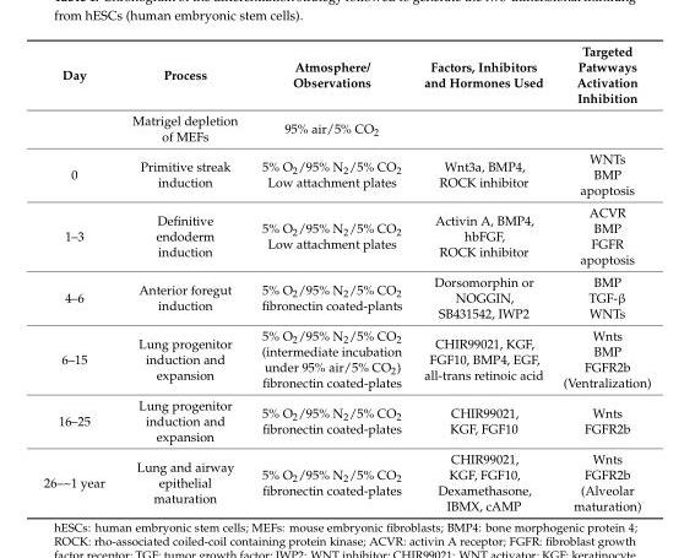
<table><thead><tr><td>Day</td><td>Process</td><td>Atmosphere/ Observations</td><td>Factors, Inhibitors and Hormones Used</td><td>Targeted Patwways Activation Inhibition</td></tr></thead><tbody><tr><td></td><td>Matrigel depletion of MEFs</td><td>95% air/5% CO<sub>2</sub></td><td></td><td></td></tr><tr><td>0</td><td>Primitive streak induction</td><td>5% O<sub>2</sub>/95% N<sub>2</sub>/5% CO<sub>2</sub> Low attachment plates</td><td>Wnt3a, BMP4, ROCK inhibitor</td><td>WNTs BMP apoptosis</td></tr><tr><td>1–3</td><td>Definitive endoderm induction</td><td>5% O<sub>2</sub>/95% N<sub>2</sub>/5% CO<sub>2</sub> Low attachment plates</td><td>Activin A, BMP4, hbFGF, ROCK inhibitor</td><td>ACVR BMP FGFR apoptosis</td></tr><tr><td>4–6</td><td>Anterior foregut induction</td><td>5% O<sub>2</sub>/95% N<sub>2</sub>/5% CO<sub>2</sub> fibronectin coated-plants</td><td>Dorsomorphin or NOGGIN, SB431542, IWP2</td><td>BMP TGF-β WNTs</td></tr><tr><td>6–15</td><td>Lung progenitor induction and expansion</td><td>5% O<sub>2</sub>/95% N<sub>2</sub>/5% CO<sub>2</sub> (intermediate incubation under 95% air/5% CO<sub>2</sub>) fibronectin coated-plates</td><td>CHIR99021, KGF, FGF10, BMP4, EGF, all-trans retinoic acid</td><td>Wnts BMP FGFR2b (Ventralization)</td></tr><tr><td>16–25</td><td>Lung progenitor induction and expansion</td><td>5% O<sub>2</sub>/95% N<sub>2</sub>/5% CO<sub>2</sub> fibronectin coated-plates</td><td>CHIR99021, KGF, FGF10</td><td>Wnts FGFR2b</td></tr><tr><td>26–~1 year</td><td>Lung and airway epithelial maturation</td><td>5% O<sub>2</sub>/95% N<sub>2</sub>/5% CO<sub>2</sub> fibronectin coated-plates</td><td>CHIR99021, KGF, FGF10, Dexamethasone, IBMX, cAMP</td><td>Wnts FGFR2b (Alveolar maturation)</td></tr></tbody></table>